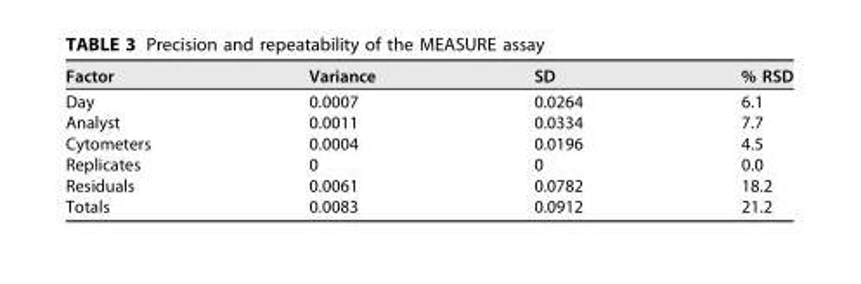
<table><thead><tr><td>Factor</td><td>Variance</td><td>SD</td><td>% RSD</td></tr></thead><tbody><tr><td>Day</td><td>0.0007</td><td>0.0264</td><td>6.1</td></tr><tr><td>Analyst</td><td>0.0011</td><td>0.0334</td><td>7.7</td></tr><tr><td>Cytometers</td><td>0.0004</td><td>0.0196</td><td>4.5</td></tr><tr><td>Replicates</td><td>0</td><td>0</td><td>0.0</td></tr><tr><td>Residuals</td><td>0.0061</td><td>0.0782</td><td>18.2</td></tr><tr><td>Totals</td><td>0.0083</td><td>0.0912</td><td>21.2</td></tr></tbody></table>